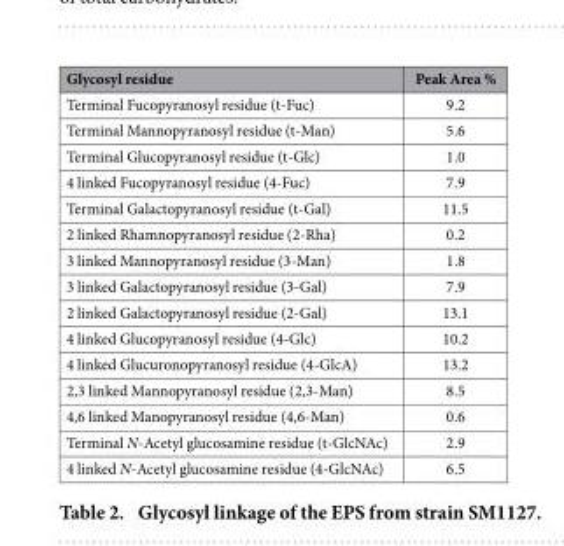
<table><thead><tr><td>Glycosyl residue</td><td>Peak Area %</td></tr></thead><tbody><tr><td>Terminal Fucopyranosyl residue (t-Fuc)</td><td>9.2</td></tr><tr><td>Terminal Mannopyranosyl residue (t-Man)</td><td>5.6</td></tr><tr><td>Terminal Glucopyranosyl residue (t-Glc)</td><td>1.0</td></tr><tr><td>4 linked Fucopyranosyl residue (4-Fuc)</td><td>7.9</td></tr><tr><td>Terminal Galactopyranosyl residue (t-Gal)</td><td>11.5</td></tr><tr><td>2 linked Rhamnopyranosyl residue (2-Rha)</td><td>0.2</td></tr><tr><td>3 linked Mannopyranosyl residue (3-Man)</td><td>1.8</td></tr><tr><td>3 linked Galactopyranosyl residue (3-Gal)</td><td>7.9</td></tr><tr><td>2 linked Galactopyranosyl residue (2-Gal)</td><td>13.1</td></tr><tr><td>4 linked Glucopyranosyl residue (4-Glc)</td><td>10.2</td></tr><tr><td>4 linked Glucuronopyranosyl residue (4-GlcA)</td><td>13.2</td></tr><tr><td>2,3 linked Mannopyranosyl residue (2,3-Man)</td><td>8.5</td></tr><tr><td>4,6 linked Manopyranosyl residue (4,6-Man)</td><td>0.6</td></tr><tr><td>Terminal N-Acetyl glucosamine residue (t-GlcNAc)</td><td>2.9</td></tr><tr><td>4 linked N-Acetyl glucosamine residue (4-GlcNAc)</td><td>6.5</td></tr></tbody></table>